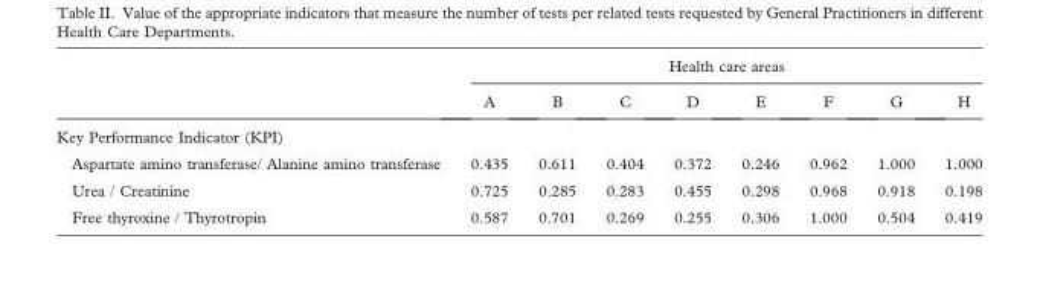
<table><thead><tr><td rowspan="2"></td><td colspan="8">Health care areas</td></tr><tr><td>A</td><td>B</td><td>C</td><td>D</td><td>E</td><td>F</td><td>G</td><td>H</td></tr></thead><tbody><tr><td colspan="9">Key Performance Indicator (KPI)</td></tr><tr><td>Aspartate amino transferase/ Alanine amino transferase</td><td>0.435</td><td>0.611</td><td>0.404</td><td>0.372</td><td>0.246</td><td>0.962</td><td>1.000</td><td>1.000</td></tr><tr><td>Urea / Creatinine</td><td>0.725</td><td>0.285</td><td>0.283</td><td>0.455</td><td>0.298</td><td>0.968</td><td>0.918</td><td>0.198</td></tr><tr><td>Free thyroxine / Thyrotropin</td><td>0.587</td><td>0.701</td><td>0.269</td><td>0.255</td><td>0.306</td><td>1.000</td><td>0.504</td><td>0.419</td></tr></tbody></table>